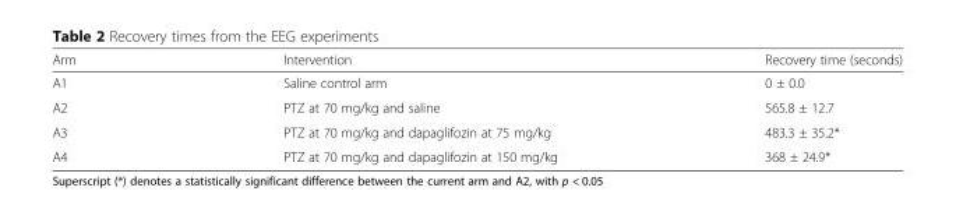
<table><thead><tr><td>Arm</td><td>Intervention</td><td>Recovery time (seconds)</td></tr></thead><tbody><tr><td>A1</td><td>Saline control arm</td><td>0 ± 0.0</td></tr><tr><td>A2</td><td>PTZ at 70 mg/kg and saline</td><td>565.8 ± 12.7</td></tr><tr><td>A3</td><td>PTZ at 70 mg/kg and dapaglifozin at 75 mg/kg</td><td>483.3 ± 35.2*</td></tr><tr><td>A4</td><td>PTZ at 70 mg/kg and dapaglifozin at 150 mg/kg</td><td>368 ± 24.9*</td></tr></tbody></table>